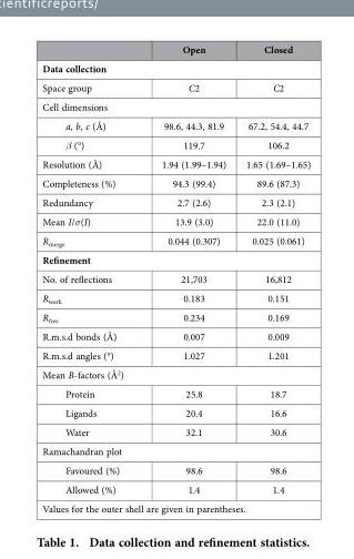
<table><thead><tr><td></td><td>Open</td><td>Closed</td></tr></thead><tbody><tr><td colspan="3">Data collection</td></tr><tr><td>Space group</td><td>C2</td><td>C2</td></tr><tr><td colspan="3">Cell dimensions</td></tr><tr><td>a, b, c (Å)</td><td>98.6, 44.3, 81.9</td><td>67.2, 54.4, 44.7</td></tr><tr><td>β (°)</td><td>119.7</td><td>106.2</td></tr><tr><td>Resolution (Å)</td><td>1.94 (1.99–1.94)</td><td>1.65 (1.69–1.65)</td></tr><tr><td>Completeness (%)</td><td>94.3 (99.4)</td><td>89.6 (87.3)</td></tr><tr><td>Redundancy</td><td>2.7 (2.6)</td><td>2.3 (2.1)</td></tr><tr><td>Mean I/σ(I)</td><td>13.9 (3.0)</td><td>22.0 (11.0)</td></tr><tr><td>R<sub>merge</sub></td><td>0.044 (0.307)</td><td>0.025 (0.061)</td></tr><tr><td colspan="3">Refinement</td></tr><tr><td>No. of reflections</td><td>21,703</td><td>16,812</td></tr><tr><td>R<sub>work</sub></td><td>0.183</td><td>0.151</td></tr><tr><td>R<sub>free</sub></td><td>0.234</td><td>0.169</td></tr><tr><td>R.m.s.d bonds (Å)</td><td>0.007</td><td>0.009</td></tr><tr><td>R.m.s.d angles (°)</td><td>1.027</td><td>1.201</td></tr><tr><td colspan="3">Mean B-factors (Å<sup>2</sup>)</td></tr><tr><td>Protein</td><td>25.8</td><td>18.7</td></tr><tr><td>Ligands</td><td>20.4</td><td>16.6</td></tr><tr><td>Water</td><td>32.1</td><td>30.6</td></tr><tr><td colspan="3">Ramachandran plot</td></tr><tr><td>Favoured (%)</td><td>98.6</td><td>98.6</td></tr><tr><td>Allowed (%)</td><td>1.4</td><td>1.4</td></tr><tr><td colspan="3">Values for the outer shell are given in parentheses.</td></tr></tbody></table>